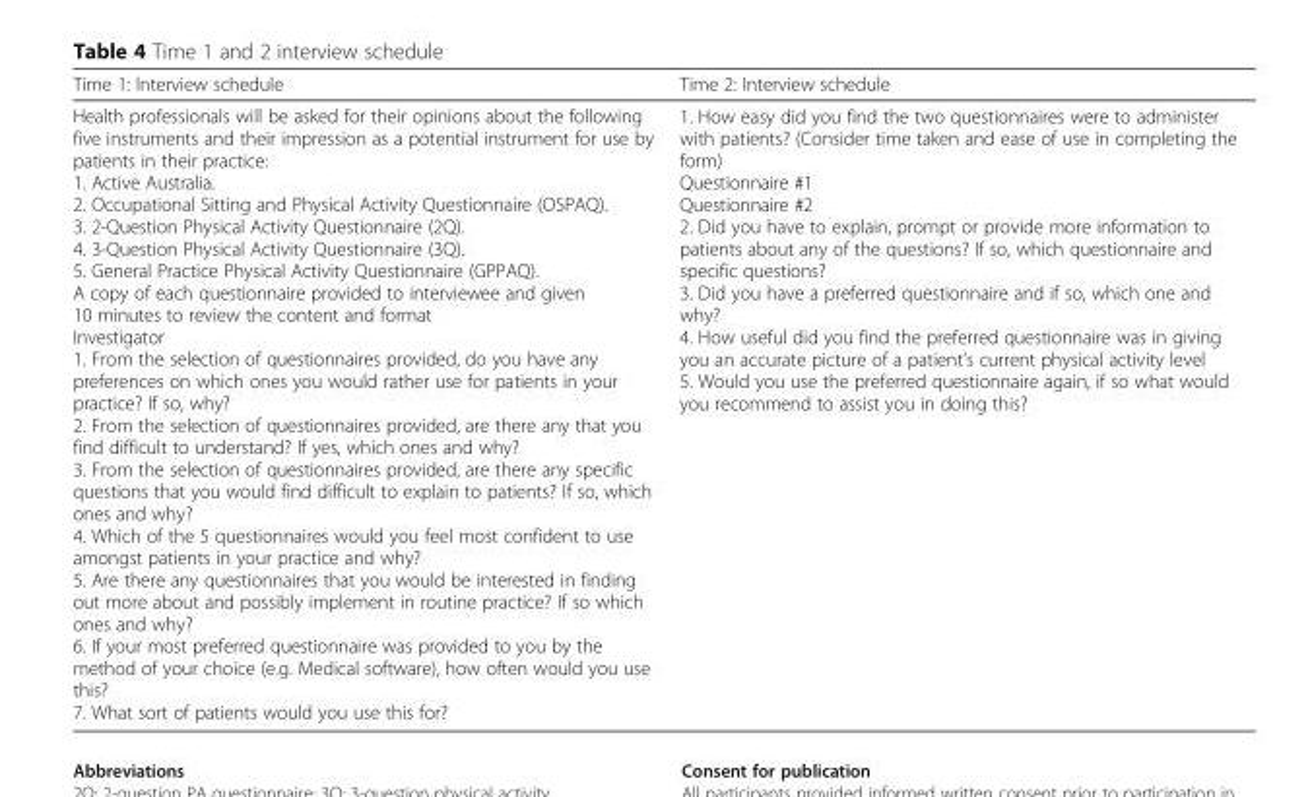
<table><thead><tr><td>Time 1: Interview schedule</td><td>Time 2: Interview schedule</td></tr></thead><tbody><tr><td>Health professionals will be asked for their opinions about the following five instruments and their impression as a potential instrument for use by patients in their practice: 1. Active Australia. 2. Occupational Sitting and Physical Activity Questionnaire (OSPAQ). 3. 2-Question Physical Activity Questionnaire (2Q). 4. 3-Question Physical Activity Questionnaire (3Q). 5. General Practice Physical Activity Questionnaire (GPPAQ). A copy of each questionnaire provided to interviewee and given 10 minutes to review the content and format Investigator 1. From the selection of questionnaires provided, do you have any preferences on which ones you would rather use for patients in your practice? If so, why? 2. From the selection of questionnaires provided, are there any that you find difficult to understand? If yes, which ones and why? 3. From the selection of questionnaires provided, are there any specific questions that you would find difficult to explain to patients? If so, which ones and why? 4. Which of the 5 questionnaires would you feel most confident to use amongst patients in your practice and why? 5. Are there any questionnaires that you would be interested in finding out more about and possibly implement in routine practice? If so which ones and why? 6. If your most preferred questionnaire was provided to you by the method of your choice (e.g. Medical software), how often would you use this? 7. What sort of patients would you use this for?</td><td>1. How easy did you find the two questionnaires were to administer with patients? (Consider time taken and ease of use in completing the form) Questionnaire #1 Questionnaire #2 2. Did you have to explain, prompt or provide more information to patients about any of the questions? If so, which questionnaire and specific questions? 3. Did you have a preferred questionnaire and if so, which one and why? 4. How useful did you find the preferred questionnaire was in giving you an accurate picture of a patient’s current physical activity level 5. Would you use the preferred questionnaire again, if so what would you recommend to assist you in doing this?</td></tr></tbody></table>